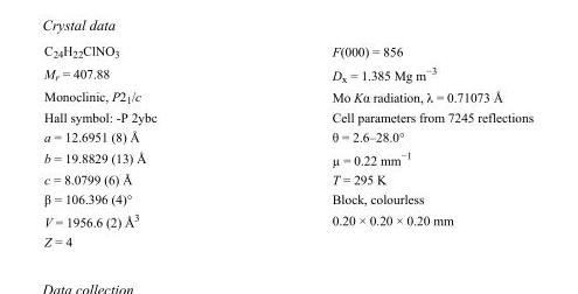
<table><tbody><tr><td>C<sub>24</sub>H<sub>22</sub>ClNO<sub>3</sub></td><td>F(000) = 856</td></tr><tr><td>M<sub>r</sub> = 407.88</td><td>D<sub>x</sub> = 1.385 Mg m<sup>−3</sup></td></tr><tr><td>Monoclinic, P2<sub>1</sub>/c</td><td>Mo Kα radiation, λ = 0.71073 Å</td></tr><tr><td>Hall symbol: -P 2ybc</td><td>Cell parameters from 7245 reflections</td></tr><tr><td>a = 12.6951 (8) Å</td><td>θ = 2.6–28.0°</td></tr><tr><td>b = 19.8829 (13) Å</td><td>µ = 0.22 mm<sup>−1</sup></td></tr><tr><td>c = 8.0799 (6) Å</td><td>T = 295 K</td></tr><tr><td>β = 106.396 (4)°</td><td>Block, colourless</td></tr><tr><td>V = 1956.6 (2) Å<sup>3</sup></td><td>0.20 × 0.20 × 0.20 mm</td></tr><tr><td>Z = 4</td><td></td></tr></tbody></table>